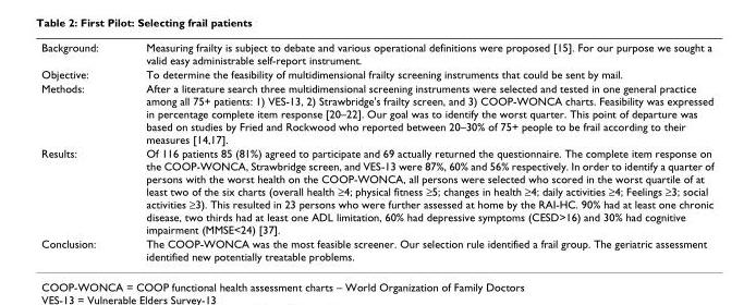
<table><tbody><tr><td>Background:</td><td>Measuring frailty is subject to debate and various operational definitions were proposed [15]. For our purpose we sought a valid easy administrable self-report instrument.</td></tr><tr><td>Objective:</td><td>To determine the feasibility of multidimensional frailty screening instruments that could be sent by mail.</td></tr><tr><td>Methods:</td><td>After a literature search three multidimensional screening instruments were selected and tested in one general practice among all 75+ patients: 1) VES-13, 2) Strawbridge&#x27;s frailty screen, and 3) COOP-WONCA charts. Feasibility was expressed in percentage complete item response [20–22]. Our goal was to identify the worst quarter. This point of departure was based on studies by Fried and Rockwood who reported between 20–30% of 75+ people to be frail according to their measures [14,17].</td></tr><tr><td>Results:</td><td>Of 116 patients 85 (81%) agreed to participate and 69 actually returned the questionnaire. The complete item response on the COOP-WONCA, Strawbridge screen, and VES-13 were 87%, 60% and 56% respectively. In order to identify a quarter of persons with the worst health on the COOP-WONCA, all persons were selected who scored in the worst quartile of at least two of the six charts (overall health ≥4; physical fitness ≥5; changes in health ≥4; daily activities ≥4; Feelings ≥3; social activities ≥3). This resulted in 23 persons who were further assessed at home by the RAI-HC. 90% had at least one chronic disease, two thirds had at least one ADL limitation, 60% had depressive symptoms (CESD&gt;16) and 30% had cognitive impairment (MMSE&lt;24) [37].</td></tr><tr><td>Conclusion:</td><td>The COOP-WONCA was the most feasible screener. Our selection rule identified a frail group. The geriatric assessment identified new potentially treatable problems.</td></tr></tbody></table>